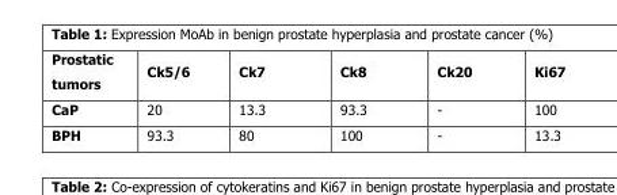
<table><thead><tr><td>Prostatic tumors</td><td>Ck5/6</td><td>Ck7</td><td>Ck8</td><td>Ck20</td><td>Ki67</td></tr></thead><tbody><tr><td>CaP</td><td>20</td><td>13.3</td><td>93.3</td><td>-</td><td>100</td></tr><tr><td>BPH</td><td>93.3</td><td>80</td><td>100</td><td>-</td><td>13.3</td></tr></tbody></table>